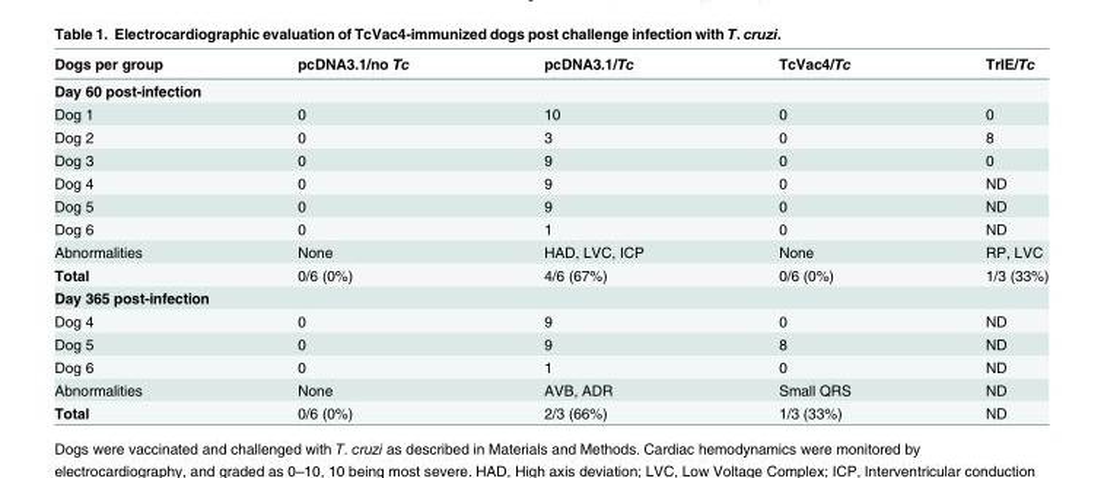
<table><thead><tr><td>Dogs per group</td><td>pcDNA3.1/no Tc</td><td>pcDNA3.1/Tc</td><td>TcVac4/Tc</td><td>TrIE/Tc</td></tr></thead><tbody><tr><td colspan="5">Day 60 post-infection</td></tr><tr><td>Dog 1</td><td>0</td><td>10</td><td>0</td><td>0</td></tr><tr><td>Dog 2</td><td>0</td><td>3</td><td>0</td><td>8</td></tr><tr><td>Dog 3</td><td>0</td><td>9</td><td>0</td><td>0</td></tr><tr><td>Dog 4</td><td>0</td><td>9</td><td>0</td><td>ND</td></tr><tr><td>Dog 5</td><td>0</td><td>9</td><td>0</td><td>ND</td></tr><tr><td>Dog 6</td><td>0</td><td>1</td><td>0</td><td>ND</td></tr><tr><td>Abnormalities</td><td>None</td><td>HAD, LVC, ICP</td><td>None</td><td>RP, LVC</td></tr><tr><td>Total</td><td>0/6 (0%)</td><td>4/6 (67%)</td><td>0/6 (0%)</td><td>1/3 (33%)</td></tr><tr><td colspan="5">Day 365 post-infection</td></tr><tr><td>Dog 4</td><td>0</td><td>9</td><td>0</td><td>ND</td></tr><tr><td>Dog 5</td><td>0</td><td>9</td><td>8</td><td>ND</td></tr><tr><td>Dog 6</td><td>0</td><td>1</td><td>0</td><td>ND</td></tr><tr><td>Abnormalities</td><td>None</td><td>AVB, ADR</td><td>Small QRS</td><td>ND</td></tr><tr><td>Total</td><td>0/6 (0%)</td><td>2/3 (66%)</td><td>1/3 (33%)</td><td>ND</td></tr></tbody></table>